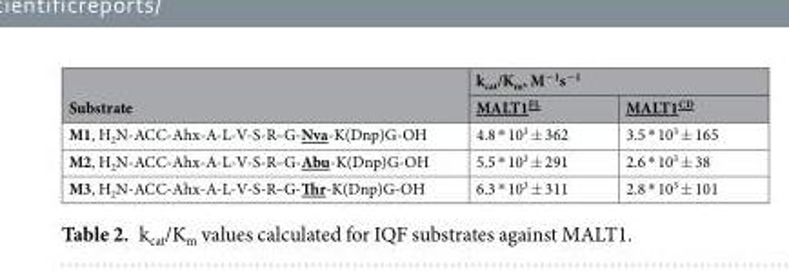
<table><thead><tr><td rowspan="2">Substrate</td><td colspan="2">k<sub>cat</sub>/K<sub>m</sub>, M<sup>−1</sup>s<sup>−1</sup></td></tr><tr><td>MALT1<sup>FL</sup></td><td>MALT1<sup>CD</sup></td></tr></thead><tbody><tr><td>M1, H<sub>2</sub>N-ACC-Ahx-A-L-V-S-R–G-Nva-K(Dnp)G-OH</td><td>4.8 * 10<sup>3</sup> ± 362</td><td>3.5 * 10<sup>3</sup> ± 165</td></tr><tr><td>M2, H<sub>2</sub>N-ACC-Ahx-A-L-V-S-R–G-Abu-K(Dnp)G-OH</td><td>5.5 * 10<sup>3</sup> ± 291</td><td>2.6 * 10<sup>3</sup> ± 38</td></tr><tr><td>M3, H<sub>2</sub>N-ACC-Ahx-A-L-V-S-R–G-Thr-K(Dnp)G-OH</td><td>6.3 * 10<sup>3</sup> ± 311</td><td>2.8 * 10<sup>3</sup> ± 101</td></tr></tbody></table>